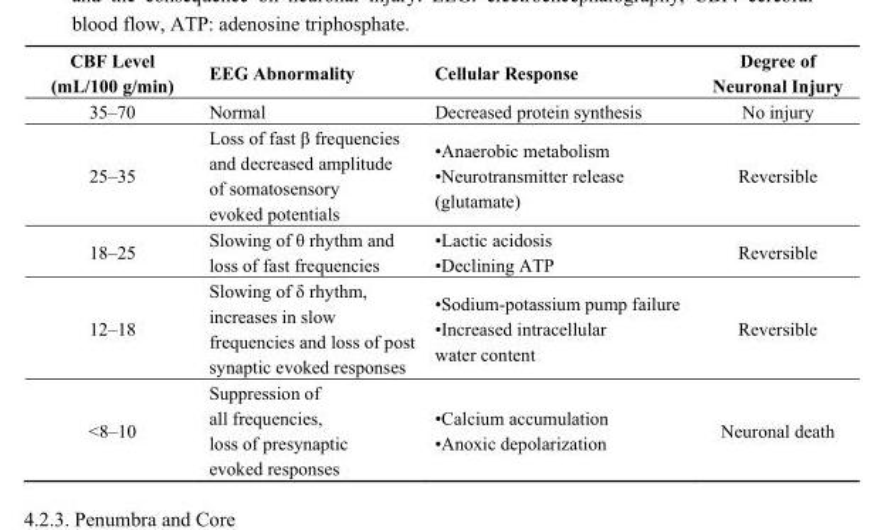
<table><thead><tr><td>CBF Level (mL/100 g/min)</td><td>EEG Abnormality</td><td>Cellular Response</td><td>Degree of Neuronal Injury</td></tr></thead><tbody><tr><td>35–70</td><td>Normal</td><td>Decreased protein synthesis</td><td>No injury</td></tr><tr><td>25–35</td><td>Loss of fast β frequencies and decreased amplitude of somatosensory evoked potentials</td><td>•Anaerobic metabolism •Neurotransmitter release (glutamate)</td><td>Reversible</td></tr><tr><td>18–25</td><td>Slowing of θ rhythm and loss of fast frequencies</td><td>•Lactic acidosis •Declining ATP</td><td>Reversible</td></tr><tr><td>12–18</td><td>Slowing of δ rhythm, increases in slow frequencies and loss of post synaptic evoked responses</td><td>•Sodium-potassium pump failure •Increased intracellular water content</td><td>Reversible</td></tr><tr><td>&lt;8–10</td><td>Suppression of all frequencies, loss of presynaptic evoked responses</td><td>•Calcium accumulation •Anoxic depolarization</td><td>Neuronal death</td></tr></tbody></table>